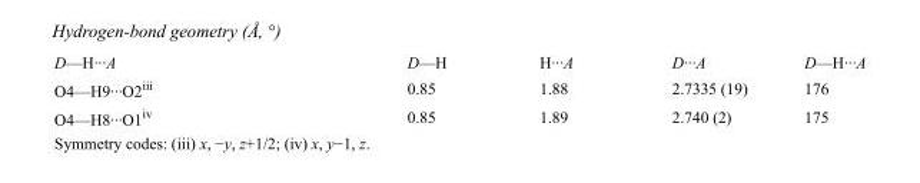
<table><tbody><tr><td>D—H···A</td><td>D—H</td><td>H···A</td><td>D···A</td><td>D—H···A</td></tr><tr><td>O4—H9···O2<sup>iii</sup></td><td>0.85</td><td>1.88</td><td>2.7335 (19)</td><td>176</td></tr><tr><td>O4—H8···O1<sup>iv</sup></td><td>0.85</td><td>1.89</td><td>2.740 (2)</td><td>175</td></tr></tbody></table>